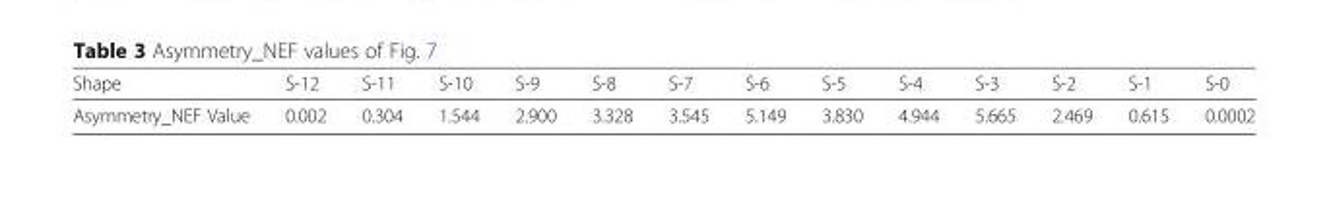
<table><thead><tr><td>Shape</td><td>S-12</td><td>S-11</td><td>S-10</td><td>S-9</td><td>S-8</td><td>S-7</td><td>S-6</td><td>S-5</td><td>S-4</td><td>S-3</td><td>S-2</td><td>S-1</td><td>S-0</td></tr></thead><tbody><tr><td>Asymmetry_NEF Value</td><td>0.002</td><td>0.304</td><td>1.544</td><td>2.900</td><td>3.328</td><td>3.545</td><td>5.149</td><td>3.830</td><td>4.944</td><td>5.665</td><td>2.469</td><td>0.615</td><td>0.0002</td></tr></tbody></table>